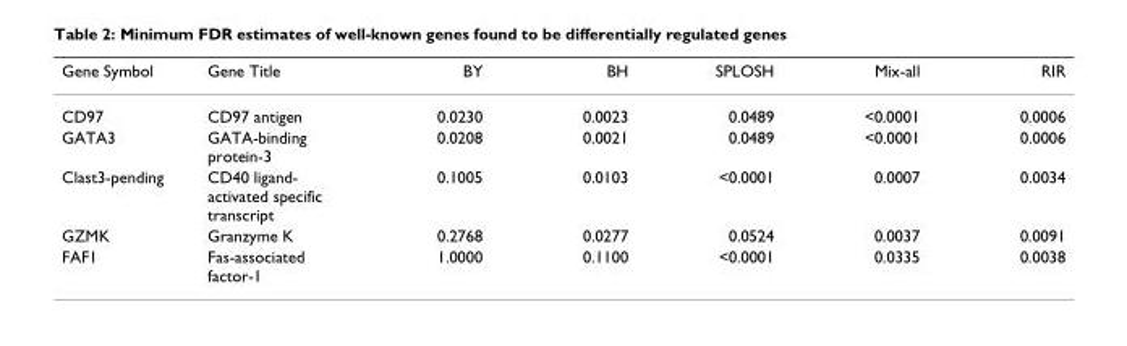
<table><thead><tr><td>Gene Symbol</td><td>Gene Title</td><td>BY</td><td>BH</td><td>SPLOSH</td><td>Mix-all</td><td>RIR</td></tr></thead><tbody><tr><td>CD97</td><td>CD97 antigen</td><td>0.0230</td><td>0.0023</td><td>0.0489</td><td>&lt;0.0001</td><td>0.0006</td></tr><tr><td>GATA3</td><td>GATA-binding protein-3</td><td>0.0208</td><td>0.0021</td><td>0.0489</td><td>&lt;0.0001</td><td>0.0006</td></tr><tr><td>Clast3-pending</td><td>CD40 ligand- activated specific transcript</td><td>0.1005</td><td>0.0103</td><td>&lt;0.0001</td><td>0.0007</td><td>0.0034</td></tr><tr><td>GZMK</td><td>Granzyme K</td><td>0.2768</td><td>0.0277</td><td>0.0524</td><td>0.0037</td><td>0.0091</td></tr><tr><td>FAF1</td><td>Fas-associated factor-1</td><td>1.0000</td><td>0.1100</td><td>&lt;0.0001</td><td>0.0335</td><td>0.0038</td></tr></tbody></table>